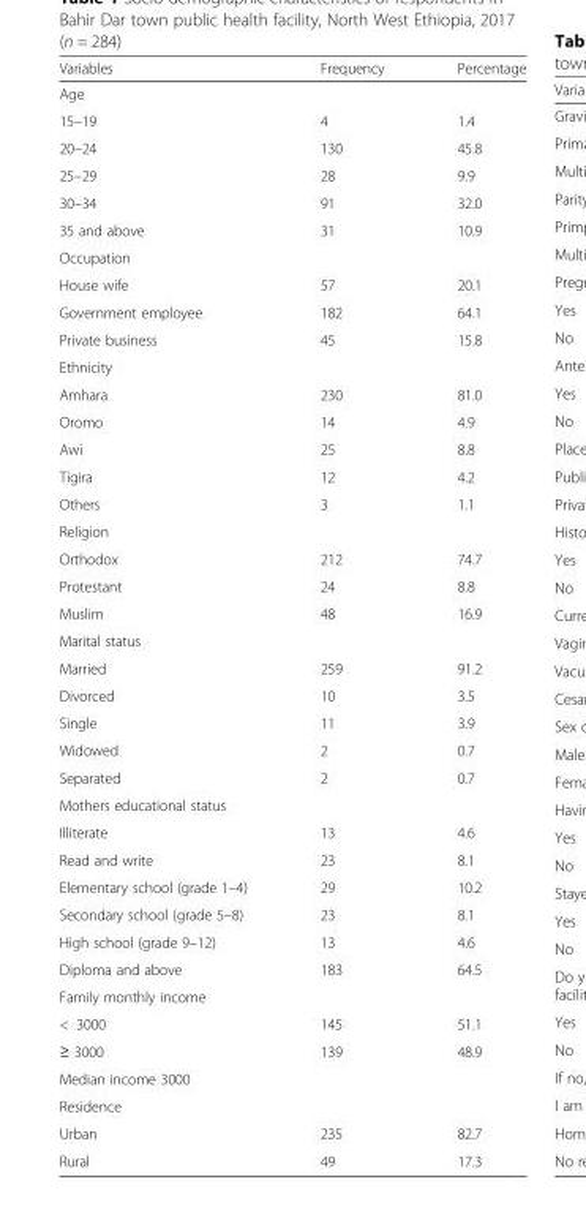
<table><thead><tr><td>Variables</td><td>Frequency</td><td>Percentage</td></tr></thead><tbody><tr><td colspan="3">Age</td></tr><tr><td>15–19</td><td>4</td><td>1.4</td></tr><tr><td>20–24</td><td>130</td><td>45.8</td></tr><tr><td>25–29</td><td>28</td><td>9.9</td></tr><tr><td>30–34</td><td>91</td><td>32.0</td></tr><tr><td>35 and above</td><td>31</td><td>10.9</td></tr><tr><td colspan="3">Occupation</td></tr><tr><td>House wife</td><td>57</td><td>20.1</td></tr><tr><td>Government employee</td><td>182</td><td>64.1</td></tr><tr><td>Private business</td><td>45</td><td>15.8</td></tr><tr><td colspan="3">Ethnicity</td></tr><tr><td>Amhara</td><td>230</td><td>81.0</td></tr><tr><td>Oromo</td><td>14</td><td>4.9</td></tr><tr><td>Awi</td><td>25</td><td>8.8</td></tr><tr><td>Tigira</td><td>12</td><td>4.2</td></tr><tr><td>Others</td><td>3</td><td>1.1</td></tr><tr><td colspan="3">Religion</td></tr><tr><td>Orthodox</td><td>212</td><td>74.7</td></tr><tr><td>Protestant</td><td>24</td><td>8.8</td></tr><tr><td>Muslim</td><td>48</td><td>16.9</td></tr><tr><td colspan="3">Marital status</td></tr><tr><td>Married</td><td>259</td><td>91.2</td></tr><tr><td>Divorced</td><td>10</td><td>3.5</td></tr><tr><td>Single</td><td>11</td><td>3.9</td></tr><tr><td>Widowed</td><td>2</td><td>0.7</td></tr><tr><td>Separated</td><td>2</td><td>0.7</td></tr><tr><td colspan="3">Mothers educational status</td></tr><tr><td>Illiterate</td><td>13</td><td>4.6</td></tr><tr><td>Read and write</td><td>23</td><td>8.1</td></tr><tr><td>Elementary school (grade 1–4)</td><td>29</td><td>10.2</td></tr><tr><td>Secondary school (grade 5–8)</td><td>23</td><td>8.1</td></tr><tr><td>High school (grade 9–12)</td><td>13</td><td>4.6</td></tr><tr><td>Diploma and above</td><td>183</td><td>64.5</td></tr><tr><td colspan="3">Family monthly income</td></tr><tr><td>&lt; 3000</td><td>145</td><td>51.1</td></tr><tr><td>≥ 3000</td><td>139</td><td>48.9</td></tr><tr><td colspan="3">Median income 3000</td></tr><tr><td colspan="3">Residence</td></tr><tr><td>Urban</td><td>235</td><td>82.7</td></tr><tr><td>Rural</td><td>49</td><td>17.3</td></tr></tbody></table>